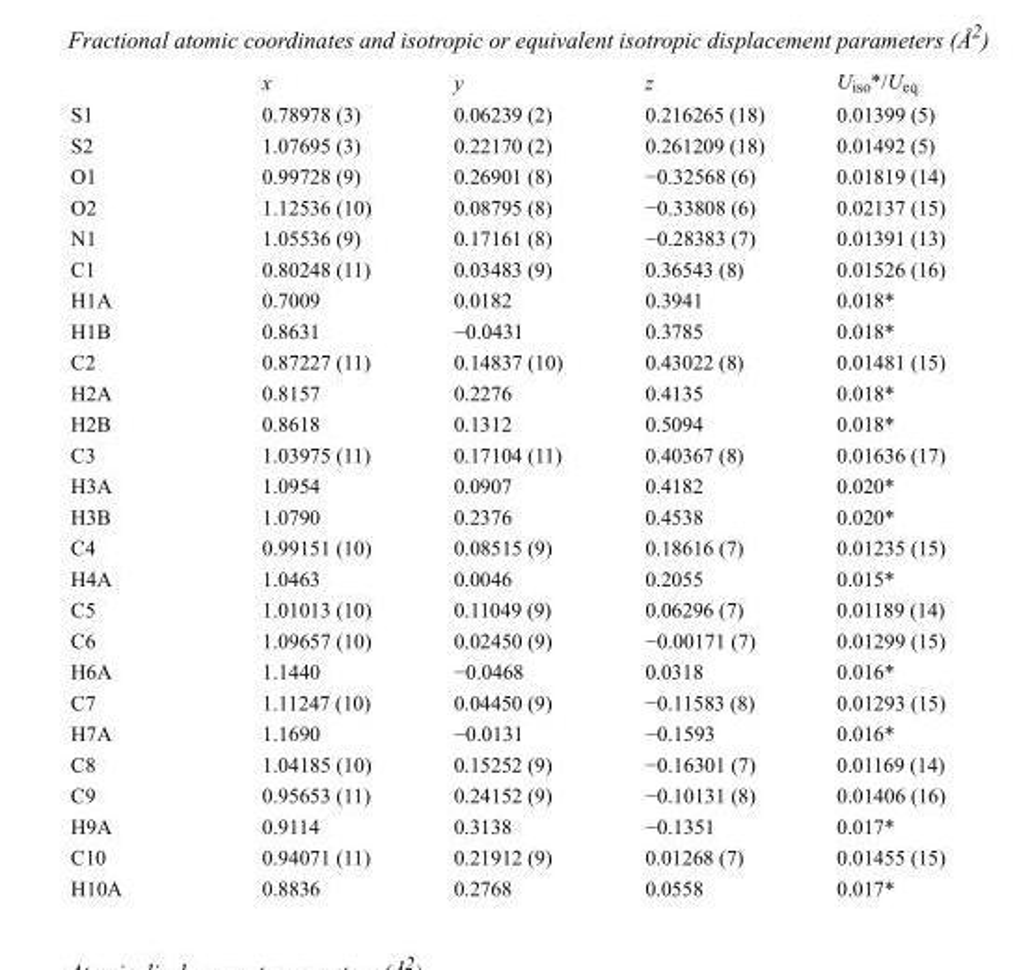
<table><thead><tr><td></td><td>x</td><td>y</td><td>z</td><td>U<sub>iso</sub>*/U<sub>eq</sub></td></tr></thead><tbody><tr><td>S1</td><td>0.78978 (3)</td><td>0.06239 (2)</td><td>0.216265 (18)</td><td>0.01399 (5)</td></tr><tr><td>S2</td><td>1.07695 (3)</td><td>0.22170 (2)</td><td>0.261209 (18)</td><td>0.01492 (5)</td></tr><tr><td>O1</td><td>0.99728 (9)</td><td>0.26901 (8)</td><td>−0.32568 (6)</td><td>0.01819 (14)</td></tr><tr><td>O2</td><td>1.12536 (10)</td><td>0.08795 (8)</td><td>−0.33808 (6)</td><td>0.02137 (15)</td></tr><tr><td>N1</td><td>1.05536 (9)</td><td>0.17161 (8)</td><td>−0.28383 (7)</td><td>0.01391 (13)</td></tr><tr><td>C1</td><td>0.80248 (11)</td><td>0.03483 (9)</td><td>0.36543 (8)</td><td>0.01526 (16)</td></tr><tr><td>H1A</td><td>0.7009</td><td>0.0182</td><td>0.3941</td><td>0.018*</td></tr><tr><td>H1B</td><td>0.8631</td><td>−0.0431</td><td>0.3785</td><td>0.018*</td></tr><tr><td>C2</td><td>0.87227 (11)</td><td>0.14837 (10)</td><td>0.43022 (8)</td><td>0.01481 (15)</td></tr><tr><td>H2A</td><td>0.8157</td><td>0.2276</td><td>0.4135</td><td>0.018*</td></tr><tr><td>H2B</td><td>0.8618</td><td>0.1312</td><td>0.5094</td><td>0.018*</td></tr><tr><td>C3</td><td>1.03975 (11)</td><td>0.17104 (11)</td><td>0.40367 (8)</td><td>0.01636 (17)</td></tr><tr><td>H3A</td><td>1.0954</td><td>0.0907</td><td>0.4182</td><td>0.020*</td></tr><tr><td>H3B</td><td>1.0790</td><td>0.2376</td><td>0.4538</td><td>0.020*</td></tr><tr><td>C4</td><td>0.99151 (10)</td><td>0.08515 (9)</td><td>0.18616 (7)</td><td>0.01235 (15)</td></tr><tr><td>H4A</td><td>1.0463</td><td>0.0046</td><td>0.2055</td><td>0.015*</td></tr><tr><td>C5</td><td>1.01013 (10)</td><td>0.11049 (9)</td><td>0.06296 (7)</td><td>0.01189 (14)</td></tr><tr><td>C6</td><td>1.09657 (10)</td><td>0.02450 (9)</td><td>−0.00171 (7)</td><td>0.01299 (15)</td></tr><tr><td>H6A</td><td>1.1440</td><td>−0.0468</td><td>0.0318</td><td>0.016*</td></tr><tr><td>C7</td><td>1.11247 (10)</td><td>0.04450 (9)</td><td>−0.11583 (8)</td><td>0.01293 (15)</td></tr><tr><td>H7A</td><td>1.1690</td><td>−0.0131</td><td>−0.1593</td><td>0.016*</td></tr><tr><td>C8</td><td>1.04185 (10)</td><td>0.15252 (9)</td><td>−0.16301 (7)</td><td>0.01169 (14)</td></tr><tr><td>C9</td><td>0.95653 (11)</td><td>0.24152 (9)</td><td>−0.10131 (8)</td><td>0.01406 (16)</td></tr><tr><td>H9A</td><td>0.9114</td><td>0.3138</td><td>−0.1351</td><td>0.017*</td></tr><tr><td>C10</td><td>0.94071 (11)</td><td>0.21912 (9)</td><td>0.01268 (7)</td><td>0.01455 (15)</td></tr><tr><td>H10A</td><td>0.8836</td><td>0.2768</td><td>0.0558</td><td>0.017*</td></tr></tbody></table>